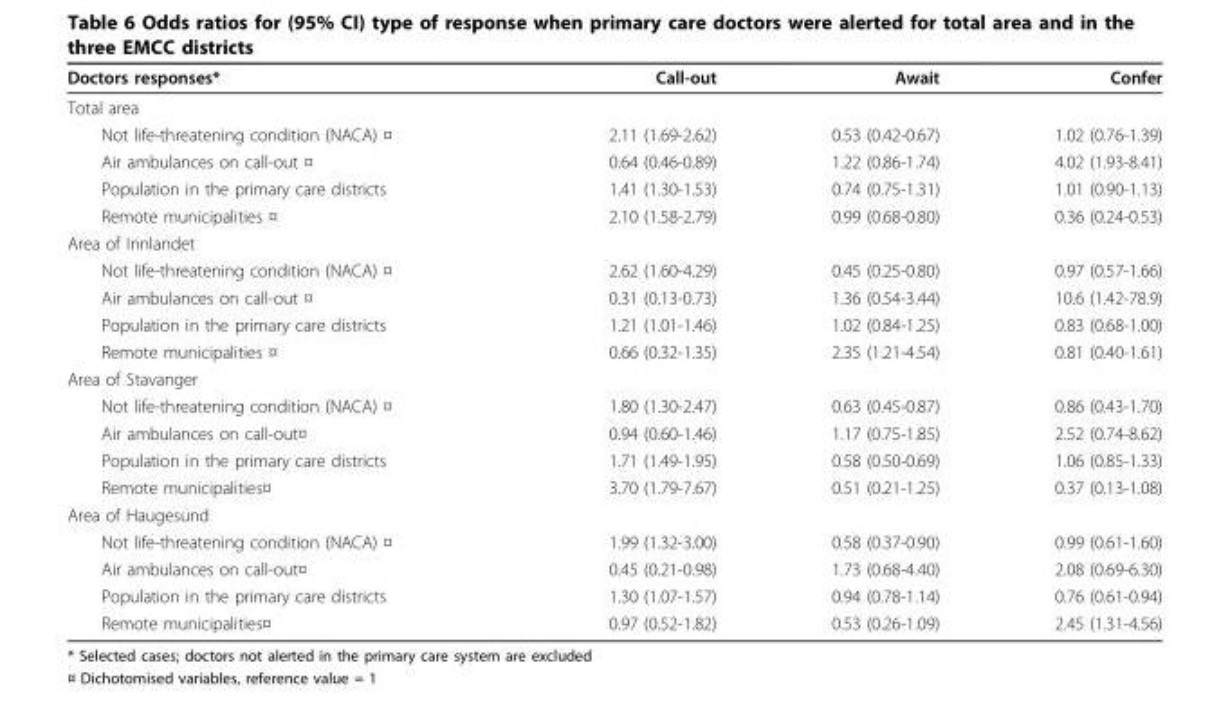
<table><thead><tr><td>Doctors responses*</td><td>Call-out</td><td>Await</td><td>Confer</td></tr></thead><tbody><tr><td colspan="4">Total area</td></tr><tr><td>Not life-threatening condition (NACA) ¤</td><td>2.11 (1.69-2.62)</td><td>0.53 (0.42-0.67)</td><td>1.02 (0.76-1.39)</td></tr><tr><td>Air ambulances on call-out ¤</td><td>0.64 (0.46-0.89)</td><td>1.22 (0.86-1.74)</td><td>4.02 (1.93-8.41)</td></tr><tr><td>Population in the primary care districts</td><td>1.41 (1.30-1.53)</td><td>0.74 (0.75-1.31)</td><td>1.01 (0.90-1.13)</td></tr><tr><td>Remote municipalities ¤</td><td>2.10 (1.58-2.79)</td><td>0.99 (0.68-0.80)</td><td>0.36 (0.24-0.53)</td></tr><tr><td colspan="4">Area of Innlandet</td></tr><tr><td>Not life-threatening condition (NACA) ¤</td><td>2.62 (1.60-4.29)</td><td>0.45 (0.25-0.80)</td><td>0.97 (0.57-1.66)</td></tr><tr><td>Air ambulances on call-out ¤</td><td>0.31 (0.13-0.73)</td><td>1.36 (0.54-3.44)</td><td>10.6 (1.42-78.9)</td></tr><tr><td>Population in the primary care districts</td><td>1.21 (1.01-1.46)</td><td>1.02 (0.84-1.25)</td><td>0.83 (0.68-1.00)</td></tr><tr><td>Remote municipalities ¤</td><td>0.66 (0.32-1.35)</td><td>2.35 (1.21-4.54)</td><td>0.81 (0.40-1.61)</td></tr><tr><td colspan="4">Area of Stavanger</td></tr><tr><td>Not life-threatening condition (NACA) ¤</td><td>1.80 (1.30-2.47)</td><td>0.63 (0.45-0.87)</td><td>0.86 (0.43-1.70)</td></tr><tr><td>Air ambulances on call-out¤</td><td>0.94 (0.60-1.46)</td><td>1.17 (0.75-1.85)</td><td>2.52 (0.74-8.62)</td></tr><tr><td>Population in the primary care districts</td><td>1.71 (1.49-1.95)</td><td>0.58 (0.50-0.69)</td><td>1.06 (0.85-1.33)</td></tr><tr><td>Remote municipalities¤</td><td>3.70 (1.79-7.67)</td><td>0.51 (0.21-1.25)</td><td>0.37 (0.13-1.08)</td></tr><tr><td colspan="4">Area of Haugesund</td></tr><tr><td>Not life-threatening condition (NACA) ¤</td><td>1.99 (1.32-3.00)</td><td>0.58 (0.37-0.90)</td><td>0.99 (0.61-1.60)</td></tr><tr><td>Air ambulances on call-out¤</td><td>0.45 (0.21-0.98)</td><td>1.73 (0.68-4.40)</td><td>2.08 (0.69-6.30)</td></tr><tr><td>Population in the primary care districts</td><td>1.30 (1.07-1.57)</td><td>0.94 (0.78-1.14)</td><td>0.76 (0.61-0.94)</td></tr><tr><td>Remote municipalities¤</td><td>0.97 (0.52-1.82)</td><td>0.53 (0.26-1.09)</td><td>2.45 (1.31-4.56)</td></tr></tbody></table>